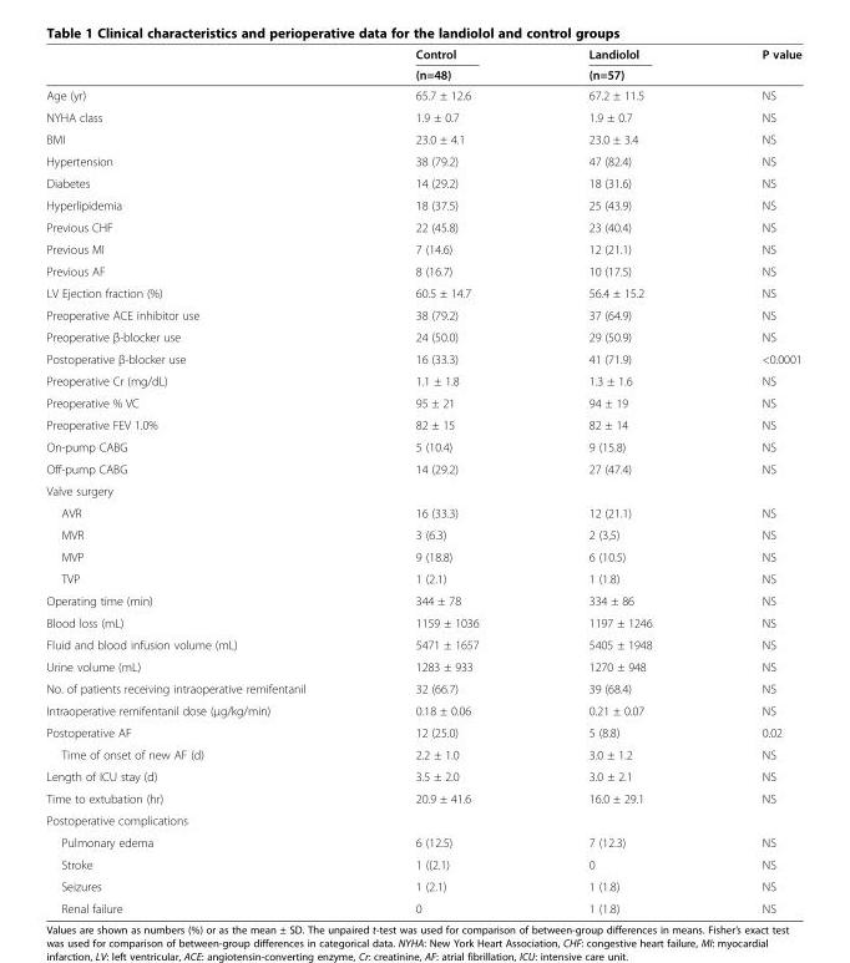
<table><thead><tr><td rowspan="2"></td><td rowspan="2">Control (n=48)</td><td rowspan="2">Landiolol (n=57)</td><td rowspan="2">P value</td></tr><tr></tr></thead><tbody><tr><td>Age (yr)</td><td>65.7 ± 12.6</td><td>67.2 ± 11.5</td><td>NS</td></tr><tr><td>NYHA class</td><td>1.9 ± 0.7</td><td>1.9 ± 0.7</td><td>NS</td></tr><tr><td>BMI</td><td>23.0 ± 4.1</td><td>23.0 ± 3.4</td><td>NS</td></tr><tr><td>Hypertension</td><td>38 (79.2)</td><td>47 (82.4)</td><td>NS</td></tr><tr><td>Diabetes</td><td>14 (29.2)</td><td>18 (31.6)</td><td>NS</td></tr><tr><td>Hyperlipidemia</td><td>18 (37.5)</td><td>25 (43.9)</td><td>NS</td></tr><tr><td>Previous CHF</td><td>22 (45.8)</td><td>23 (40.4)</td><td>NS</td></tr><tr><td>Previous MI</td><td>7 (14.6)</td><td>12 (21.1)</td><td>NS</td></tr><tr><td>Previous AF</td><td>8 (16.7)</td><td>10 (17.5)</td><td>NS</td></tr><tr><td>LV Ejection fraction (%)</td><td>60.5 ± 14.7</td><td>56.4 ± 15.2</td><td>NS</td></tr><tr><td>Preoperative ACE inhibitor use</td><td>38 (79.2)</td><td>37 (64.9)</td><td>NS</td></tr><tr><td>Preoperative β-blocker use</td><td>24 (50.0)</td><td>29 (50.9)</td><td>NS</td></tr><tr><td>Postoperative β-blocker use</td><td>16 (33.3)</td><td>41 (71.9)</td><td>&lt;0.0001</td></tr><tr><td>Preoperative Cr (mg/dL)</td><td>1.1 ± 1.8</td><td>1.3 ± 1.6</td><td>NS</td></tr><tr><td>Preoperative % VC</td><td>95 ± 21</td><td>94 ± 19</td><td>NS</td></tr><tr><td>Preoperative FEV 1.0%</td><td>82 ± 15</td><td>82 ± 14</td><td>NS</td></tr><tr><td>On-pump CABG</td><td>5 (10.4)</td><td>9 (15.8)</td><td>NS</td></tr><tr><td>Off-pump CABG</td><td>14 (29.2)</td><td>27 (47.4)</td><td>NS</td></tr><tr><td colspan="4">Valve surgery</td></tr><tr><td>AVR</td><td>16 (33.3)</td><td>12 (21.1)</td><td>NS</td></tr><tr><td>MVR</td><td>3 (6.3)</td><td>2 (3,5)</td><td>NS</td></tr><tr><td>MVP</td><td>9 (18.8)</td><td>6 (10.5)</td><td>NS</td></tr><tr><td>TVP</td><td>1 (2.1)</td><td>1 (1.8)</td><td>NS</td></tr><tr><td>Operating time (min)</td><td>344 ± 78</td><td>334 ± 86</td><td>NS</td></tr><tr><td>Blood loss (mL)</td><td>1159 ± 1036</td><td>1197 ± 1246</td><td>NS</td></tr><tr><td>Fluid and blood infusion volume (mL)</td><td>5471 ± 1657</td><td>5405 ± 1948</td><td>NS</td></tr><tr><td>Urine volume (mL)</td><td>1283 ± 933</td><td>1270 ± 948</td><td>NS</td></tr><tr><td>No. of patients receiving intraoperative remifentanil</td><td>32 (66.7)</td><td>39 (68.4)</td><td>NS</td></tr><tr><td>Intraoperative remifentanil dose (μg/kg/min)</td><td>0.18 ± 0.06</td><td>0.21 ± 0.07</td><td>NS</td></tr><tr><td>Postoperative AF</td><td>12 (25.0)</td><td>5 (8.8)</td><td>0.02</td></tr><tr><td>Time of onset of new AF (d)</td><td>2.2 ± 1.0</td><td>3.0 ± 1.2</td><td>NS</td></tr><tr><td>Length of ICU stay (d)</td><td>3.5 ± 2.0</td><td>3.0 ± 2.1</td><td>NS</td></tr><tr><td>Time to extubation (hr)</td><td>20.9 ± 41.6</td><td>16.0 ± 29.1</td><td>NS</td></tr><tr><td colspan="4">Postoperative complications</td></tr><tr><td>Pulmonary edema</td><td>6 (12.5)</td><td>7 (12.3)</td><td>NS</td></tr><tr><td>Stroke</td><td>1 ((2.1)</td><td>0</td><td>NS</td></tr><tr><td>Seizures</td><td>1 (2.1)</td><td>1 (1.8)</td><td>NS</td></tr><tr><td>Renal failure</td><td>0</td><td>1 (1.8)</td><td>NS</td></tr></tbody></table>